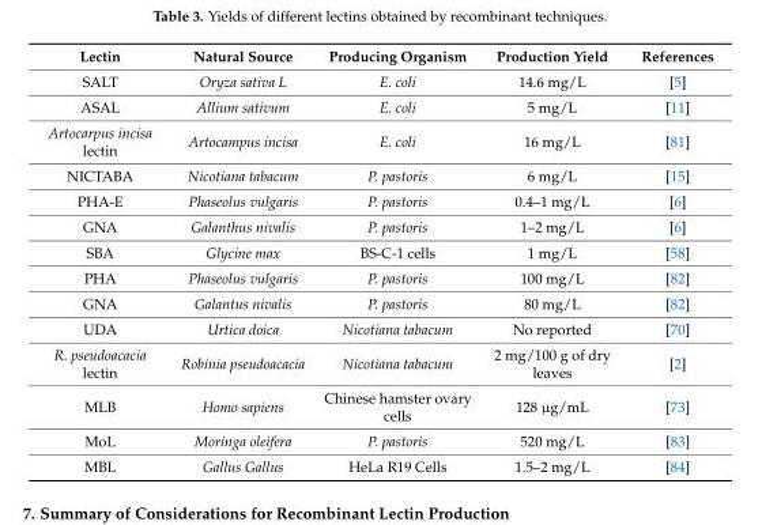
<table><thead><tr><td>Lectin</td><td>Natural Source</td><td>Producing Organism</td><td>Production Yield</td><td>References</td></tr></thead><tbody><tr><td>SALT</td><td>Oryza sativa L</td><td>E. coli</td><td>14.6 mg/L</td><td>[5]</td></tr><tr><td>ASAL</td><td>Allium sativum</td><td>E. coli</td><td>5 mg/L</td><td>[11]</td></tr><tr><td>Artocarpus incisa lectin</td><td>Artocampus incisa</td><td>E. coli</td><td>16 mg/L</td><td>[81]</td></tr><tr><td>NICTABA</td><td>Nicotiana tabacum</td><td>P. pastoris</td><td>6 mg/L</td><td>[15]</td></tr><tr><td>PHA-E</td><td>Phaseolus vulgaris</td><td>P. pastoris</td><td>0.4–1 mg/L</td><td>[6]</td></tr><tr><td>GNA</td><td>Galanthus nivalis</td><td>P. pastoris</td><td>1–2 mg/L</td><td>[6]</td></tr><tr><td>SBA</td><td>Glycine max</td><td>BS-C-1 cells</td><td>1 mg/L</td><td>[58]</td></tr><tr><td>PHA</td><td>Phaseolus vulgaris</td><td>P. pastoris</td><td>100 mg/L</td><td>[82]</td></tr><tr><td>GNA</td><td>Galantus nivalis</td><td>P. pastoris</td><td>80 mg/L</td><td>[82]</td></tr><tr><td>UDA</td><td>Urtica doica</td><td>Nicotiana tabacum</td><td>No reported</td><td>[70]</td></tr><tr><td>R. pseudoacacia lectin</td><td>Robinia pseudoacacia</td><td>Nicotiana tabacum</td><td>2 mg/100 g of dry leaves</td><td>[2]</td></tr><tr><td>MLB</td><td>Homo sapiens</td><td>Chinese hamster ovary cells</td><td>128 µg/mL</td><td>[73]</td></tr><tr><td>MoL</td><td>Moringa oleifera</td><td>P. pastoris</td><td>520 mg/L</td><td>[83]</td></tr><tr><td>MBL</td><td>Gallus Gallus</td><td>HeLa R19 Cells</td><td>1.5–2 mg/L</td><td>[84]</td></tr></tbody></table>